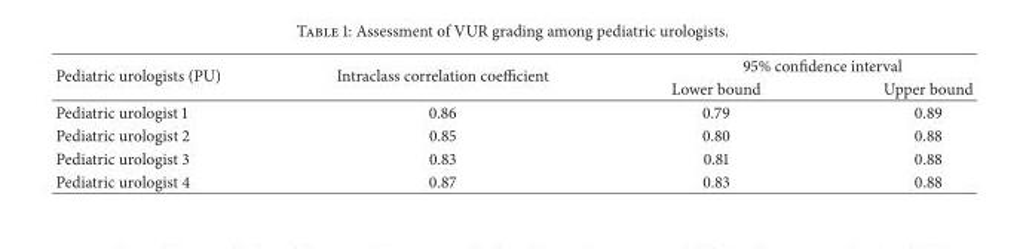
<table><thead><tr><td rowspan="2">Pediatric urologists (PU)</td><td rowspan="2">Intraclass correlation coefficient</td><td colspan="2">95% confidence interval</td></tr><tr><td>Lower bound</td><td>Upper bound</td></tr></thead><tbody><tr><td>Pediatric urologist 1</td><td>0.86</td><td>0.79</td><td>0.89</td></tr><tr><td>Pediatric urologist 2</td><td>0.85</td><td>0.80</td><td>0.88</td></tr><tr><td>Pediatric urologist 3</td><td>0.83</td><td>0.81</td><td>0.88</td></tr><tr><td>Pediatric urologist 4</td><td>0.87</td><td>0.83</td><td>0.88</td></tr></tbody></table>